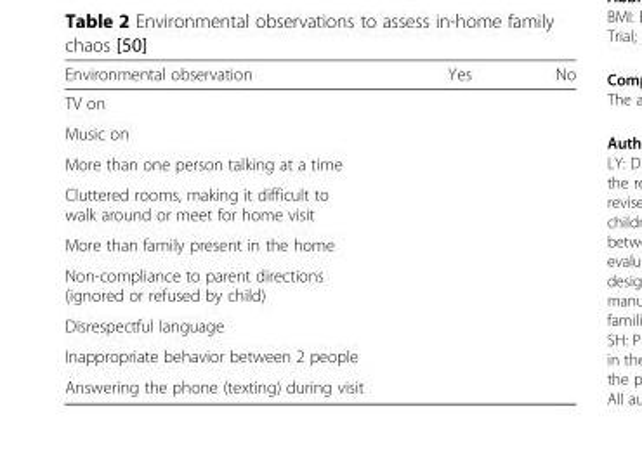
<table><thead><tr><td>Environmental observation</td><td>Yes</td><td>No</td></tr></thead><tbody><tr><td colspan="3">TV on</td></tr><tr><td colspan="3">Music on</td></tr><tr><td colspan="3">More than one person talking at a time</td></tr><tr><td colspan="3">Cluttered rooms, making it difficult to walk around or meet for home visit</td></tr><tr><td colspan="3">More than family present in the home</td></tr><tr><td colspan="3">Non-compliance to parent directions (ignored or refused by child)</td></tr><tr><td colspan="3">Disrespectful language</td></tr><tr><td colspan="3">Inappropriate behavior between 2 people</td></tr><tr><td>Answering the phone (texting) during visit</td><td></td><td></td></tr></tbody></table>